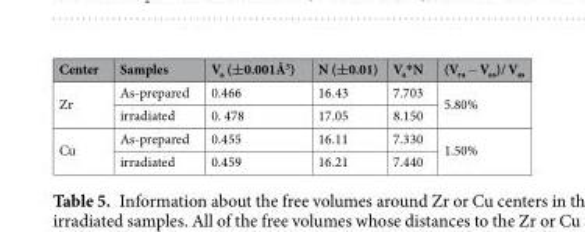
<table><thead><tr><td>Center</td><td>Samples</td><td>V<sub>a</sub> (±0.001Å<sup>3</sup>)</td><td>N (±0.01)</td><td>V<sub>a</sub>*N</td><td>(V<sub>ra</sub> − V<sub>as</sub>)/ V<sub>as</sub></td></tr></thead><tbody><tr><td rowspan="2">Zr</td><td>As-prepared</td><td>0.466</td><td>16.43</td><td>7.703</td><td rowspan="2">5.80%</td></tr><tr><td>irradiated</td><td>0. 478</td><td>17.05</td><td>8.150</td></tr><tr><td rowspan="2">Cu</td><td>As-prepared</td><td>0.455</td><td>16.11</td><td>7.330</td><td rowspan="2">1.50%</td></tr><tr><td>irradiated</td><td>0.459</td><td>16.21</td><td>7.440</td></tr></tbody></table>